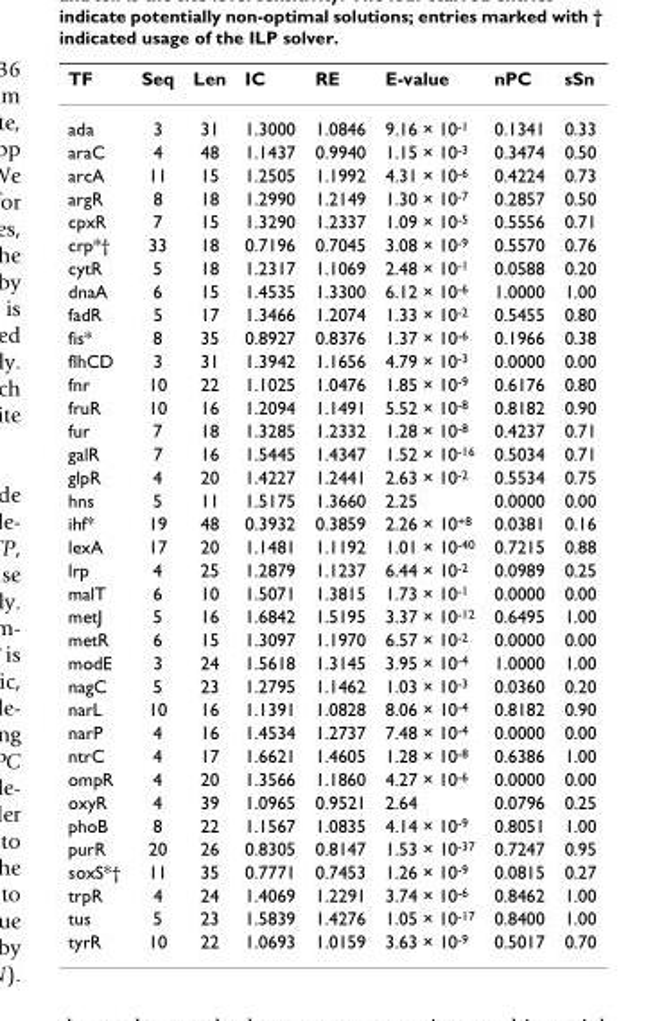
<table><thead><tr><td>TF</td><td>Seq</td><td>Len</td><td>IC</td><td>RE</td><td>E-value</td><td>nPC</td><td>sSn</td></tr></thead><tbody><tr><td>ada</td><td>3</td><td>31</td><td>1.3000</td><td>1.0846</td><td>9.16 × 10<sup>-1</sup></td><td>0.1341</td><td>0.33</td></tr><tr><td>araC</td><td>4</td><td>48</td><td>1.1437</td><td>0.9940</td><td>1.15 × 10<sup>-3</sup></td><td>0.3474</td><td>0.50</td></tr><tr><td>arcA</td><td>11</td><td>15</td><td>1.2505</td><td>1.1992</td><td>4.31 × 10<sup>-6</sup></td><td>0.4224</td><td>0.73</td></tr><tr><td>argR</td><td>8</td><td>18</td><td>1.2990</td><td>1.2149</td><td>1.30 × 10<sup>-7</sup></td><td>0.2857</td><td>0.50</td></tr><tr><td>cpxR</td><td>7</td><td>15</td><td>1.3290</td><td>1.2337</td><td>1.09 × 10<sup>-5</sup></td><td>0.5556</td><td>0.71</td></tr><tr><td>crp*†</td><td>33</td><td>18</td><td>0.7196</td><td>0.7045</td><td>3.08 × 10<sup>-9</sup></td><td>0.5570</td><td>0.76</td></tr><tr><td>cytR</td><td>5</td><td>18</td><td>1.2317</td><td>1.1069</td><td>2.48 × 10<sup>-1</sup></td><td>0.0588</td><td>0.20</td></tr><tr><td>dnaA</td><td>6</td><td>15</td><td>1.4535</td><td>1.3300</td><td>6.12 × 10<sup>-6</sup></td><td>1.0000</td><td>1.00</td></tr><tr><td>fadR</td><td>5</td><td>17</td><td>1.3466</td><td>1.2074</td><td>1.33 × 10<sup>-2</sup></td><td>0.5455</td><td>0.80</td></tr><tr><td>fis*</td><td>8</td><td>35</td><td>0.8927</td><td>0.8376</td><td>1.37 × 10<sup>-6</sup></td><td>0.1966</td><td>0.38</td></tr><tr><td>flhCD</td><td>3</td><td>31</td><td>1.3942</td><td>1.1656</td><td>4.79 × 10<sup>-3</sup></td><td>0.0000</td><td>0.00</td></tr><tr><td>fnr</td><td>10</td><td>22</td><td>1.1025</td><td>1.0476</td><td>1.85 × 10<sup>-9</sup></td><td>0.6176</td><td>0.80</td></tr><tr><td>fruR</td><td>10</td><td>16</td><td>1.2094</td><td>1.1491</td><td>5.52 × 10<sup>-8</sup></td><td>0.8182</td><td>0.90</td></tr><tr><td>fur</td><td>7</td><td>18</td><td>1.3285</td><td>1.2332</td><td>1.28 × 10<sup>-8</sup></td><td>0.4237</td><td>0.71</td></tr><tr><td>galR</td><td>7</td><td>16</td><td>1.5445</td><td>1.4347</td><td>1.52 × 10<sup>-16</sup></td><td>0.5034</td><td>0.71</td></tr><tr><td>glpR</td><td>4</td><td>20</td><td>1.4227</td><td>1.2441</td><td>2.63 × 10<sup>-2</sup></td><td>0.5534</td><td>0.75</td></tr><tr><td>hns</td><td>5</td><td>11</td><td>1.5175</td><td>1.3660</td><td>2.25</td><td>0.0000</td><td>0.00</td></tr><tr><td>ihf*</td><td>19</td><td>48</td><td>0.3932</td><td>0.3859</td><td>2.26 × 10<sup>+8</sup></td><td>0.0381</td><td>0.16</td></tr><tr><td>lexA</td><td>17</td><td>20</td><td>1.1481</td><td>1.1192</td><td>1.01 × 10<sup>-40</sup></td><td>0.7215</td><td>0.88</td></tr><tr><td>lrp</td><td>4</td><td>25</td><td>1.2879</td><td>1.1237</td><td>6.44 × 10<sup>-2</sup></td><td>0.0989</td><td>0.25</td></tr><tr><td>malT</td><td>6</td><td>10</td><td>1.5071</td><td>1.3815</td><td>1.73 × 10<sup>-1</sup></td><td>0.0000</td><td>0.00</td></tr><tr><td>metJ</td><td>5</td><td>16</td><td>1.6842</td><td>1.5195</td><td>3.37 × 10<sup>-12</sup></td><td>0.6495</td><td>1.00</td></tr><tr><td>metR</td><td>6</td><td>15</td><td>1.3097</td><td>1.1970</td><td>6.57 × 10<sup>-2</sup></td><td>0.0000</td><td>0.00</td></tr><tr><td>modE</td><td>3</td><td>24</td><td>1.5618</td><td>1.3145</td><td>3.95 × 10<sup>-4</sup></td><td>1.0000</td><td>1.00</td></tr><tr><td>nagC</td><td>5</td><td>23</td><td>1.2795</td><td>1.1462</td><td>1.03 × 10<sup>-3</sup></td><td>0.0360</td><td>0.20</td></tr><tr><td>narL</td><td>10</td><td>16</td><td>1.1391</td><td>1.0828</td><td>8.06 × 10<sup>-4</sup></td><td>0.8182</td><td>0.90</td></tr><tr><td>narP</td><td>4</td><td>16</td><td>1.4534</td><td>1.2737</td><td>7.48 × 10<sup>-4</sup></td><td>0.0000</td><td>0.00</td></tr><tr><td>ntrC</td><td>4</td><td>17</td><td>1.6621</td><td>1.4605</td><td>1.28 × 10<sup>-8</sup></td><td>0.6386</td><td>1.00</td></tr><tr><td>ompR</td><td>4</td><td>20</td><td>1.3566</td><td>1.1860</td><td>4.27 × 10<sup>-6</sup></td><td>0.0000</td><td>0.00</td></tr><tr><td>oxyR</td><td>4</td><td>39</td><td>1.0965</td><td>0.9521</td><td>2.64</td><td>0.0796</td><td>0.25</td></tr><tr><td>phoB</td><td>8</td><td>22</td><td>1.1567</td><td>1.0835</td><td>4.14 × 10<sup>-9</sup></td><td>0.8051</td><td>1.00</td></tr><tr><td>purR</td><td>20</td><td>26</td><td>0.8305</td><td>0.8147</td><td>1.53 × 10<sup>-37</sup></td><td>0.7247</td><td>0.95</td></tr><tr><td>soxS*†</td><td>11</td><td>35</td><td>0.7771</td><td>0.7453</td><td>1.26 × 10<sup>-9</sup></td><td>0.0815</td><td>0.27</td></tr><tr><td>trpR</td><td>4</td><td>24</td><td>1.4069</td><td>1.2291</td><td>3.74 × 10<sup>-6</sup></td><td>0.8462</td><td>1.00</td></tr><tr><td>tus</td><td>5</td><td>23</td><td>1.5839</td><td>1.4276</td><td>1.05 × 10<sup>-17</sup></td><td>0.8400</td><td>1.00</td></tr><tr><td>tyrR</td><td>10</td><td>22</td><td>1.0693</td><td>1.0159</td><td>3.63 × 10<sup>-9</sup></td><td>0.5017</td><td>0.70</td></tr></tbody></table>